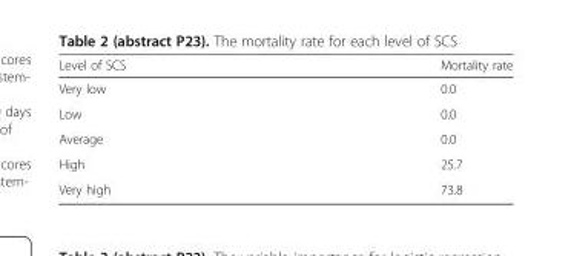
<table><thead><tr><td>Level of SCS</td><td>Mortality rate</td></tr></thead><tbody><tr><td>Very low</td><td>0.0</td></tr><tr><td>Low</td><td>0.0</td></tr><tr><td>Average</td><td>0.0</td></tr><tr><td>High</td><td>25.7</td></tr><tr><td>Very high</td><td>73.8</td></tr></tbody></table>